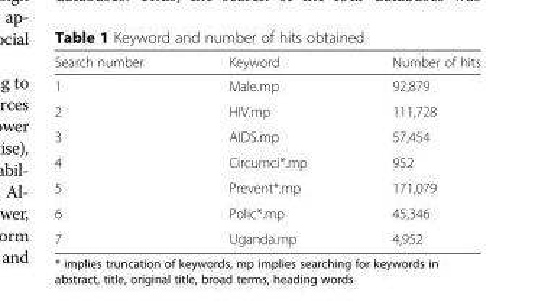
<table><tbody><tr><td>Search number</td><td>Keyword</td><td>Number of hits</td></tr><tr><td>1</td><td>Male.mp</td><td>92,879</td></tr><tr><td>2</td><td>HIV.mp</td><td>111,728</td></tr><tr><td>3</td><td>AIDS.mp</td><td>57,454</td></tr><tr><td>4</td><td>Circumci*.mp</td><td>952</td></tr><tr><td>5</td><td>Prevent*.mp</td><td>171,079</td></tr><tr><td>6</td><td>Polic*.mp</td><td>45,346</td></tr><tr><td>7</td><td>Uganda.mp</td><td>4,952</td></tr></tbody></table>